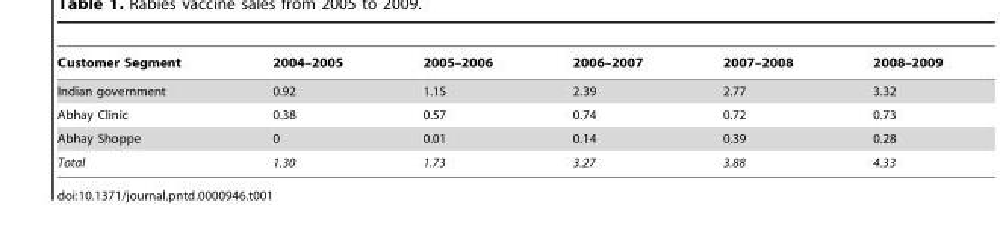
<table><thead><tr><td>Customer Segment</td><td>2004–2005</td><td>2005–2006</td><td>2006–2007</td><td>2007–2008</td><td>2008–2009</td></tr></thead><tbody><tr><td>Indian government</td><td>0.92</td><td>1.15</td><td>2.39</td><td>2.77</td><td>3.32</td></tr><tr><td>Abhay Clinic</td><td>0.38</td><td>0.57</td><td>0.74</td><td>0.72</td><td>0.73</td></tr><tr><td>Abhay Shoppe</td><td>0</td><td>0.01</td><td>0.14</td><td>0.39</td><td>0.28</td></tr><tr><td>Total</td><td>1.30</td><td>1.73</td><td>3.27</td><td>3.88</td><td>4.33</td></tr></tbody></table>